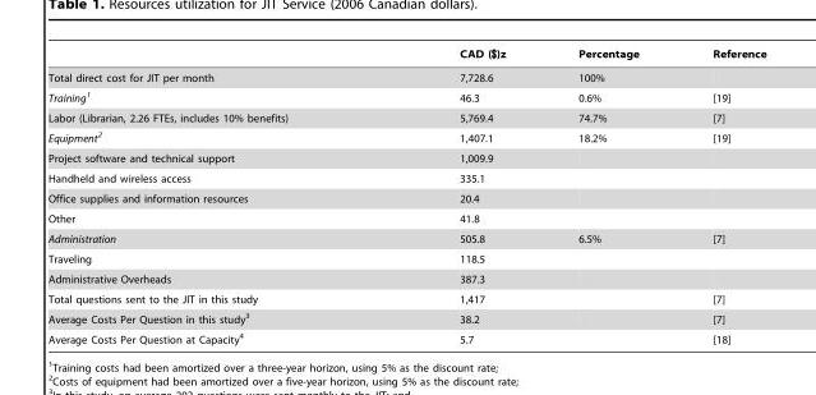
<table><thead><tr><td></td><td>CAD ($)z</td><td>Percentage</td><td>Reference</td></tr></thead><tbody><tr><td>Total direct cost for JIT per month</td><td>7,728.6</td><td>100%</td><td></td></tr><tr><td>Training1</td><td>46.3</td><td>0.6%</td><td>[19]</td></tr><tr><td>Labor (Librarian, 2.26 FTEs, includes 10% benefits)</td><td>5,769.4</td><td>74.7%</td><td>[7]</td></tr><tr><td>Equipment2</td><td>1,407.1</td><td>18.2%</td><td>[19]</td></tr><tr><td>Project software and technical support</td><td>1,009.9</td><td></td><td></td></tr><tr><td>Handheld and wireless access</td><td>335.1</td><td></td><td></td></tr><tr><td>Office supplies and information resources</td><td>20.4</td><td></td><td></td></tr><tr><td>Other</td><td>41.8</td><td></td><td></td></tr><tr><td>Administration</td><td>505.8</td><td>6.5%</td><td>[7]</td></tr><tr><td>Traveling</td><td>118.5</td><td></td><td></td></tr><tr><td>Administrative Overheads</td><td>387.3</td><td></td><td></td></tr><tr><td>Total questions sent to the JIT in this study</td><td>1,417</td><td></td><td>[7]</td></tr><tr><td>Average Costs Per Question in this study<sup>3</sup></td><td>38.2</td><td></td><td>[7]</td></tr><tr><td>Average Costs Per Question at Capacity<sup>4</sup></td><td>5.7</td><td></td><td>[18]</td></tr></tbody></table>